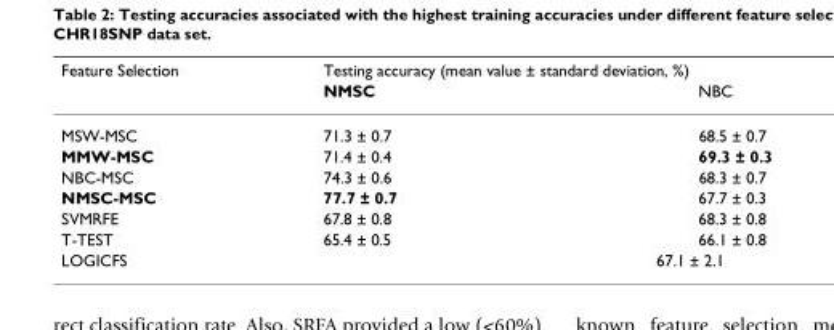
<table><thead><tr><td rowspan="2">Feature Selection</td><td colspan="2">Testing accuracy (mean value ± standard deviation, %)</td></tr><tr><td>NMSC</td><td>NBC</td></tr></thead><tbody><tr><td>MSW-MSC</td><td>71.3 ± 0.7</td><td>68.5 ± 0.7</td></tr><tr><td>MMW-MSC</td><td>71.4 ± 0.4</td><td>69.3 ± 0.3</td></tr><tr><td>NBC-MSC</td><td>74.3 ± 0.6</td><td>68.3 ± 0.7</td></tr><tr><td>NMSC-MSC</td><td>77.7 ± 0.7</td><td>67.7 ± 0.3</td></tr><tr><td>SVMRFE</td><td>67.8 ± 0.8</td><td>68.3 ± 0.8</td></tr><tr><td>T-TEST</td><td>65.4 ± 0.5</td><td>66.1 ± 0.8</td></tr><tr><td>LOGICFS</td><td colspan="2">67.1 ± 2.1</td></tr></tbody></table>